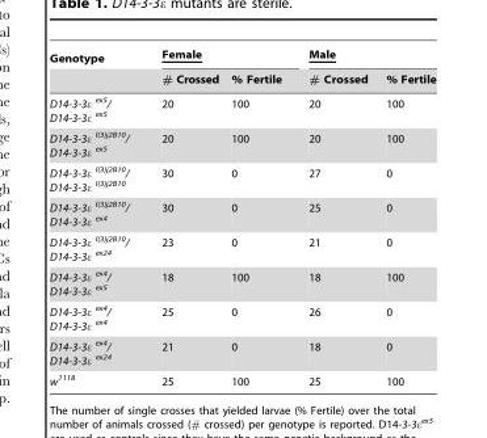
<table><thead><tr><td rowspan="2">Genotype</td><td colspan="2">Female</td><td colspan="2">Male</td></tr><tr><td># Crossed</td><td>% Fertile</td><td># Crossed</td><td>% Fertile</td></tr></thead><tbody><tr><td>D14-3-3ε <sup>ex5</sup>/ D14-3-3ε <sup>ex5</sup></td><td>20</td><td>100</td><td>20</td><td>100</td></tr><tr><td>D14-3-3ε <sup>l(3)j2B10</sup>/ D14-3-3ε <sup>ex5</sup></td><td>20</td><td>100</td><td>20</td><td>100</td></tr><tr><td>D14-3-3ε <sup>l(3)j2B10</sup>/ D14-3-3ε <sup>l(3)j2B10</sup></td><td>30</td><td>0</td><td>27</td><td>0</td></tr><tr><td>D14-3-3ε <sup>l(3)j2B10</sup>/ D14-3-3ε <sup>ex4</sup></td><td>30</td><td>0</td><td>25</td><td>0</td></tr><tr><td>D14-3-3ε <sup>l(3)j2B10</sup>/ D14-3-3ε <sup>ex24</sup></td><td>23</td><td>0</td><td>21</td><td>0</td></tr><tr><td>D14-3-3ε <sup>ex4</sup>/ D14-3-3ε <sup>ex5</sup></td><td>18</td><td>100</td><td>18</td><td>100</td></tr><tr><td>D14-3-3ε <sup>ex4</sup>/ D14-3-3ε <sup>ex4</sup></td><td>25</td><td>0</td><td>26</td><td>0</td></tr><tr><td>D14-3-3ε <sup>ex4</sup>/ D14-3-3ε <sup>ex24</sup></td><td>21</td><td>0</td><td>18</td><td>0</td></tr><tr><td>w<sup>1118</sup></td><td>25</td><td>100</td><td>25</td><td>100</td></tr></tbody></table>